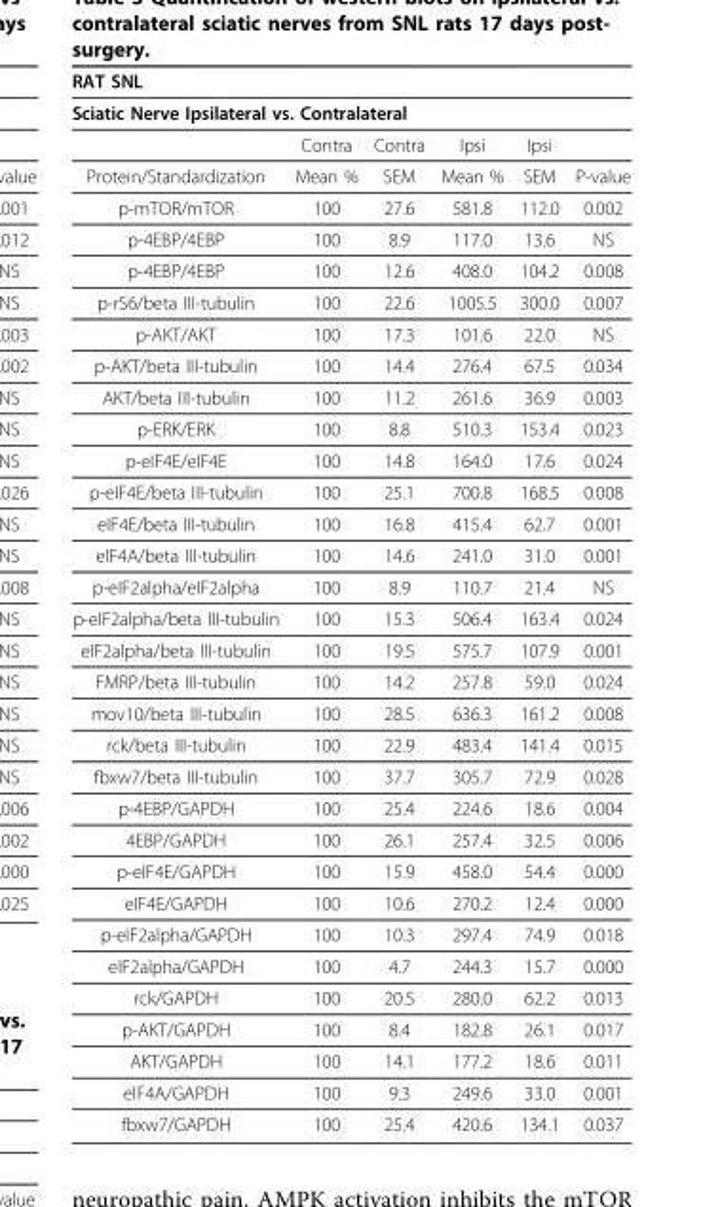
<table><thead><tr><td rowspan="2" colspan="6">RAT SNL Sciatic Nerve Ipsilateral vs. Contralateral</td></tr><tr></tr><tr><td></td><td>Contra</td><td>Contra</td><td>Ipsi</td><td>Ipsi</td><td></td></tr></thead><tbody><tr><td>Protein/Standardization</td><td>Mean %</td><td>SEM</td><td>Mean %</td><td>SEM</td><td>P-value</td></tr><tr><td>p-mTOR/mTOR</td><td>100</td><td>27.6</td><td>581.8</td><td>112.0</td><td>0.002</td></tr><tr><td>p-4EBP/4EBP</td><td>100</td><td>8.9</td><td>117.0</td><td>13.6</td><td>NS</td></tr><tr><td>p-4EBP/4EBP</td><td>100</td><td>12.6</td><td>408.0</td><td>104.2</td><td>0.008</td></tr><tr><td>p-rS6/beta III-tubulin</td><td>100</td><td>22.6</td><td>1005.5</td><td>300.0</td><td>0.007</td></tr><tr><td>p-AKT/AKT</td><td>100</td><td>17.3</td><td>101.6</td><td>22.0</td><td>NS</td></tr><tr><td>p-AKT/beta III-tubulin</td><td>100</td><td>14.4</td><td>276.4</td><td>67.5</td><td>0.034</td></tr><tr><td>AKT/beta III-tubulin</td><td>100</td><td>11.2</td><td>261.6</td><td>36.9</td><td>0.003</td></tr><tr><td>p-ERK/ERK</td><td>100</td><td>8.8</td><td>510.3</td><td>153.4</td><td>0.023</td></tr><tr><td>p-eIF4E/eIF4E</td><td>100</td><td>14.8</td><td>164.0</td><td>17.6</td><td>0.024</td></tr><tr><td>p-eIF4E/beta III-tubulin</td><td>100</td><td>25.1</td><td>700.8</td><td>168.5</td><td>0.008</td></tr><tr><td>eIF4E/beta III-tubulin</td><td>100</td><td>16.8</td><td>415.4</td><td>62.7</td><td>0.001</td></tr><tr><td>eIF4A/beta III-tubulin</td><td>100</td><td>14.6</td><td>241.0</td><td>31.0</td><td>0.001</td></tr><tr><td>p-eIF2alpha/eIF2alpha</td><td>100</td><td>8.9</td><td>110.7</td><td>21.4</td><td>NS</td></tr><tr><td>p-eIF2alpha/beta III-tubulin</td><td>100</td><td>15.3</td><td>506.4</td><td>163.4</td><td>0.024</td></tr><tr><td>eIF2alpha/beta III-tubulin</td><td>100</td><td>19.5</td><td>575.7</td><td>107.9</td><td>0.001</td></tr><tr><td>FMRP/beta III-tubulin</td><td>100</td><td>14.2</td><td>257.8</td><td>59.0</td><td>0.024</td></tr><tr><td>mov10/beta III-tubulin</td><td>100</td><td>28.5</td><td>636.3</td><td>161.2</td><td>0.008</td></tr><tr><td>rck/beta III-tubulin</td><td>100</td><td>22.9</td><td>483.4</td><td>141.4</td><td>0.015</td></tr><tr><td>fbxw7/beta III-tubulin</td><td>100</td><td>37.7</td><td>305.7</td><td>72.9</td><td>0.028</td></tr><tr><td>p-4EBP/GAPDH</td><td>100</td><td>25.4</td><td>224.6</td><td>18.6</td><td>0.004</td></tr><tr><td>4EBP/GAPDH</td><td>100</td><td>26.1</td><td>257.4</td><td>32.5</td><td>0.006</td></tr><tr><td>p-eIF4E/GAPDH</td><td>100</td><td>15.9</td><td>458.0</td><td>54.4</td><td>0.000</td></tr><tr><td>eIF4E/GAPDH</td><td>100</td><td>10.6</td><td>270.2</td><td>12.4</td><td>0.000</td></tr><tr><td>p-eIF2alpha/GAPDH</td><td>100</td><td>10.3</td><td>297.4</td><td>74.9</td><td>0.018</td></tr><tr><td>eIF2alpha/GAPDH</td><td>100</td><td>4.7</td><td>244.3</td><td>15.7</td><td>0.000</td></tr><tr><td>rck/GAPDH</td><td>100</td><td>20.5</td><td>280.0</td><td>62.2</td><td>0.013</td></tr><tr><td>p-AKT/GAPDH</td><td>100</td><td>8.4</td><td>182.8</td><td>26.1</td><td>0.017</td></tr><tr><td>AKT/GAPDH</td><td>100</td><td>14.1</td><td>177.2</td><td>18.6</td><td>0.011</td></tr><tr><td>eIF4A/GAPDH</td><td>100</td><td>9.3</td><td>249.6</td><td>33.0</td><td>0.001</td></tr><tr><td>fbxw7/GAPDH</td><td>100</td><td>25.4</td><td>420.6</td><td>134.1</td><td>0.037</td></tr></tbody></table>